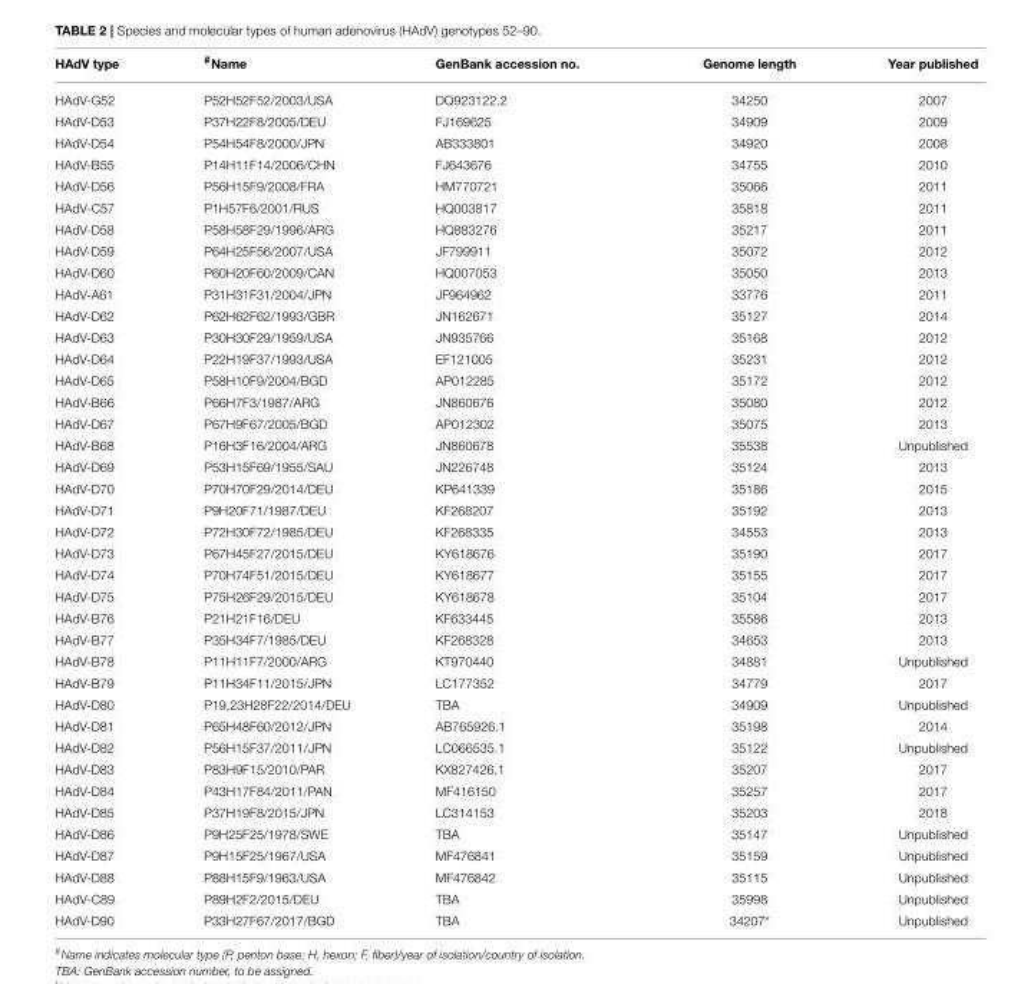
<table><thead><tr><td>HAdV type</td><td><sup>#</sup>Name</td><td>GenBank accession no.</td><td>Genome length</td><td>Year published</td></tr></thead><tbody><tr><td>HAdV-G52</td><td>P52H52F52/2003/USA</td><td>DQ923122.2</td><td>34250</td><td>2007</td></tr><tr><td>HAdV-D53</td><td>P37H22F8/2005/DEU</td><td>FJ169625</td><td>34909</td><td>2009</td></tr><tr><td>HAdV-D54</td><td>P54H54F8/2000/JPN</td><td>AB333801</td><td>34920</td><td>2008</td></tr><tr><td>HAdV-B55</td><td>P14H11F14/2006/CHN</td><td>FJ643676</td><td>34755</td><td>2010</td></tr><tr><td>HAdV-D56</td><td>P56H15F9/2008/FRA</td><td>HM770721</td><td>35066</td><td>2011</td></tr><tr><td>HAdV-C57</td><td>P1H57F6/2001/RUS</td><td>HQ003817</td><td>35818</td><td>2011</td></tr><tr><td>HAdV-D58</td><td>P58H58F29/1996/ARG</td><td>HQ883276</td><td>35217</td><td>2011</td></tr><tr><td>HAdV-D59</td><td>P64H25F56/2007/USA</td><td>JF799911</td><td>35072</td><td>2012</td></tr><tr><td>HAdV-D60</td><td>P60H20F60/2009/CAN</td><td>HQ007053</td><td>35050</td><td>2013</td></tr><tr><td>HAdV-A61</td><td>P31H31F31/2004/JPN</td><td>JF964962</td><td>33776</td><td>2011</td></tr><tr><td>HAdV-D62</td><td>P62H62F62/1993/GBR</td><td>JN162671</td><td>35127</td><td>2014</td></tr><tr><td>HAdV-D63</td><td>P30H30F29/1959/USA</td><td>JN935766</td><td>35168</td><td>2012</td></tr><tr><td>HAdV-D64</td><td>P22H19F37/1993/USA</td><td>EF121005</td><td>35231</td><td>2012</td></tr><tr><td>HAdV-D65</td><td>P58H10F9/2004/BGD</td><td>AP012285</td><td>35172</td><td>2012</td></tr><tr><td>HAdV-B66</td><td>P66H7F3/1987/ARG</td><td>JN860676</td><td>35080</td><td>2012</td></tr><tr><td>HAdV-D67</td><td>P67H9F67/2005/BGD</td><td>AP012302</td><td>35075</td><td>2013</td></tr><tr><td>HAdV-B68</td><td>P16H3F16/2004/ARG</td><td>JN860678</td><td>35538</td><td>Unpublished</td></tr><tr><td>HAdV-D69</td><td>P53H15F69/1955/SAU</td><td>JN226748</td><td>35124</td><td>2013</td></tr><tr><td>HAdV-D70</td><td>P70H70F29/2014/DEU</td><td>KP641339</td><td>35186</td><td>2015</td></tr><tr><td>HAdV-D71</td><td>P9H20F71/1987/DEU</td><td>KF268207</td><td>35192</td><td>2013</td></tr><tr><td>HAdV-D72</td><td>P72H30F72/1985/DEU</td><td>KF268335</td><td>34553</td><td>2013</td></tr><tr><td>HAdV-D73</td><td>P67H45F27/2015/DEU</td><td>KY618676</td><td>35190</td><td>2017</td></tr><tr><td>HAdV-D74</td><td>P70H74F51/2015/DEU</td><td>KY618677</td><td>35155</td><td>2017</td></tr><tr><td>HAdV-D75</td><td>P75H26F29/2015/DEU</td><td>KY618678</td><td>35104</td><td>2017</td></tr><tr><td>HAdV-B76</td><td>P21H21F16/DEU</td><td>KF633445</td><td>35586</td><td>2013</td></tr><tr><td>HAdV-B77</td><td>P35H34F7/1985/DEU</td><td>KF268328</td><td>34653</td><td>2013</td></tr><tr><td>HAdV-B78</td><td>P11H11F7/2000/ARG</td><td>KT970440</td><td>34881</td><td>Unpublished</td></tr><tr><td>HAdV-B79</td><td>P11H34F11/2015/JPN</td><td>LC177352</td><td>34779</td><td>2017</td></tr><tr><td>HAdV-D80</td><td>P19,23H28F22/2014/DEU</td><td>TBA</td><td>34909</td><td>Unpublished</td></tr><tr><td>HAdV-D81</td><td>P65H48F60/2012/JPN</td><td>AB765926.1</td><td>35198</td><td>2014</td></tr><tr><td>HAdV-D82</td><td>P56H15F37/2011/JPN</td><td>LC066535.1</td><td>35122</td><td>Unpublished</td></tr><tr><td>HAdV-D83</td><td>P83H9F15/2010/PAR</td><td>KX827426.1</td><td>35207</td><td>2017</td></tr><tr><td>HAdV-D84</td><td>P43H17F84/2011/PAN</td><td>MF416150</td><td>35257</td><td>2017</td></tr><tr><td>HAdV-D85</td><td>P37H19F8/2015/JPN</td><td>LC314153</td><td>35203</td><td>2018</td></tr><tr><td>HAdV-D86</td><td>P9H25F25/1978/SWE</td><td>TBA</td><td>35147</td><td>Unpublished</td></tr><tr><td>HAdV-D87</td><td>P9H15F25/1967/USA</td><td>MF476841</td><td>35159</td><td>Unpublished</td></tr><tr><td>HAdV-D88</td><td>P88H15F9/1963/USA</td><td>MF476842</td><td>35115</td><td>Unpublished</td></tr><tr><td>HAdV-C89</td><td>P89H2F2/2015/DEU</td><td>TBA</td><td>35998</td><td>Unpublished</td></tr><tr><td>HAdV-D90</td><td>P33H27F67/2017/BGD</td><td>TBA</td><td>34207*</td><td>Unpublished</td></tr></tbody></table>